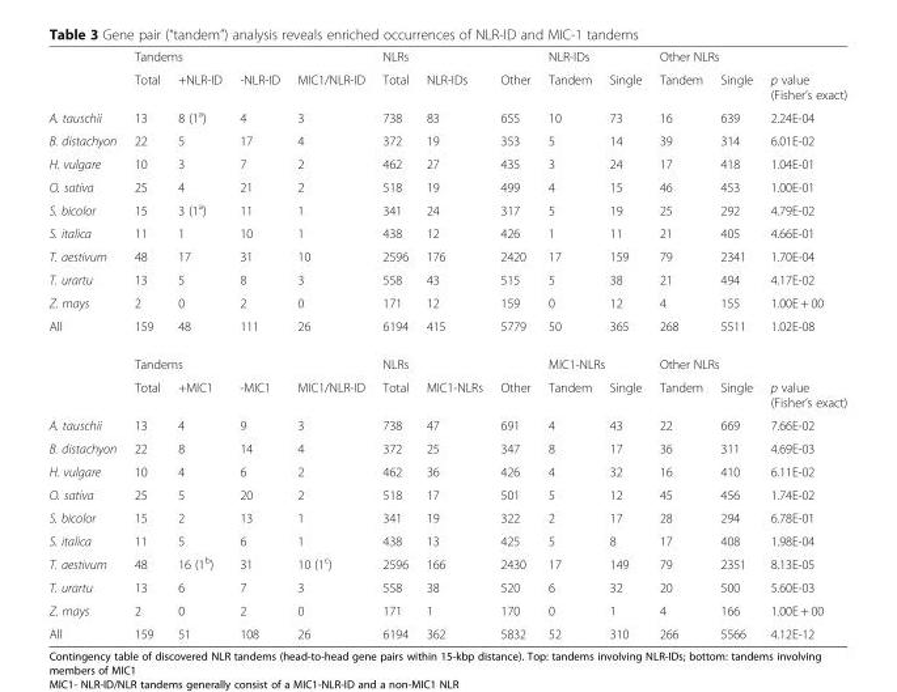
<table><thead><tr><td rowspan="2"></td><td colspan="4">Tandems</td><td colspan="3">NLRs</td><td colspan="2">NLR-IDs</td><td colspan="2">Other NLRs</td><td rowspan="2">p value (Fisher’s exact)</td></tr><tr><td>Total</td><td>+NLR-ID</td><td>-NLR-ID</td><td>MIC1/NLR-ID</td><td>Total</td><td>NLR-IDs</td><td>Other</td><td>Tandem</td><td>Single</td><td>Tandem</td><td>Single</td></tr></thead><tbody><tr><td>A. tauschii</td><td>13</td><td>8 (1<sup>a</sup>)</td><td>4</td><td>3</td><td>738</td><td>83</td><td>655</td><td>10</td><td>73</td><td>16</td><td>639</td><td>2.24E-04</td></tr><tr><td>B. distachyon</td><td>22</td><td>5</td><td>17</td><td>4</td><td>372</td><td>19</td><td>353</td><td>5</td><td>14</td><td>39</td><td>314</td><td>6.01E-02</td></tr><tr><td>H. vulgare</td><td>10</td><td>3</td><td>7</td><td>2</td><td>462</td><td>27</td><td>435</td><td>3</td><td>24</td><td>17</td><td>418</td><td>1.04E-01</td></tr><tr><td>O. sativa</td><td>25</td><td>4</td><td>21</td><td>2</td><td>518</td><td>19</td><td>499</td><td>4</td><td>15</td><td>46</td><td>453</td><td>1.00E-01</td></tr><tr><td>S. bicolor</td><td>15</td><td>3 (1<sup>a</sup>)</td><td>11</td><td>1</td><td>341</td><td>24</td><td>317</td><td>5</td><td>19</td><td>25</td><td>292</td><td>4.79E-02</td></tr><tr><td>S. italica</td><td>11</td><td>1</td><td>10</td><td>1</td><td>438</td><td>12</td><td>426</td><td>1</td><td>11</td><td>21</td><td>405</td><td>4.66E-01</td></tr><tr><td>T. aestivum</td><td>48</td><td>17</td><td>31</td><td>10</td><td>2596</td><td>176</td><td>2420</td><td>17</td><td>159</td><td>79</td><td>2341</td><td>1.70E-04</td></tr><tr><td>T. urartu</td><td>13</td><td>5</td><td>8</td><td>3</td><td>558</td><td>43</td><td>515</td><td>5</td><td>38</td><td>21</td><td>494</td><td>4.17E-02</td></tr><tr><td>Z. mays</td><td>2</td><td>0</td><td>2</td><td>0</td><td>171</td><td>12</td><td>159</td><td>0</td><td>12</td><td>4</td><td>155</td><td>1.00E + 00</td></tr><tr><td rowspan="3">All</td><td>159</td><td>48</td><td>111</td><td>26</td><td>6194</td><td>415</td><td>5779</td><td>50</td><td>365</td><td>268</td><td>5511</td><td>1.02E-08</td></tr><tr><td colspan="4">Tandems</td><td colspan="3">NLRs</td><td colspan="2">MIC1-NLRs</td><td colspan="2">Other NLRs</td><td></td></tr><tr><td>Total</td><td>+MIC1</td><td>-MIC1</td><td>MIC1/NLR-ID</td><td>Total</td><td>MIC1-NLRs</td><td>Other</td><td>Tandem</td><td>Single</td><td>Tandem</td><td>Single</td><td>p value (Fisher’s exact)</td></tr><tr><td>A. tauschii</td><td>13</td><td>4</td><td>9</td><td>3</td><td>738</td><td>47</td><td>691</td><td>4</td><td>43</td><td>22</td><td>669</td><td>7.66E-02</td></tr><tr><td>B. distachyon</td><td>22</td><td>8</td><td>14</td><td>4</td><td>372</td><td>25</td><td>347</td><td>8</td><td>17</td><td>36</td><td>311</td><td>4.69E-03</td></tr><tr><td>H. vulgare</td><td>10</td><td>4</td><td>6</td><td>2</td><td>462</td><td>36</td><td>426</td><td>4</td><td>32</td><td>16</td><td>410</td><td>6.11E-02</td></tr><tr><td>O. sativa</td><td>25</td><td>5</td><td>20</td><td>2</td><td>518</td><td>17</td><td>501</td><td>5</td><td>12</td><td>45</td><td>456</td><td>1.74E-02</td></tr><tr><td>S. bicolor</td><td>15</td><td>2</td><td>13</td><td>1</td><td>341</td><td>19</td><td>322</td><td>2</td><td>17</td><td>28</td><td>294</td><td>6.78E-01</td></tr><tr><td>S. italica</td><td>11</td><td>5</td><td>6</td><td>1</td><td>438</td><td>13</td><td>425</td><td>5</td><td>8</td><td>17</td><td>408</td><td>1.98E-04</td></tr><tr><td>T. aestivum</td><td>48</td><td>16 (1<sup>b</sup>)</td><td>31</td><td>10 (1<sup>c</sup>)</td><td>2596</td><td>166</td><td>2430</td><td>17</td><td>149</td><td>79</td><td>2351</td><td>8.13E-05</td></tr><tr><td>T. urartu</td><td>13</td><td>6</td><td>7</td><td>3</td><td>558</td><td>38</td><td>520</td><td>6</td><td>32</td><td>20</td><td>500</td><td>5.60E-03</td></tr><tr><td>Z. mays</td><td>2</td><td>0</td><td>2</td><td>0</td><td>171</td><td>1</td><td>170</td><td>0</td><td>1</td><td>4</td><td>166</td><td>1.00E + 00</td></tr><tr><td>All</td><td>159</td><td>51</td><td>108</td><td>26</td><td>6194</td><td>362</td><td>5832</td><td>52</td><td>310</td><td>266</td><td>5566</td><td>4.12E-12</td></tr></tbody></table>